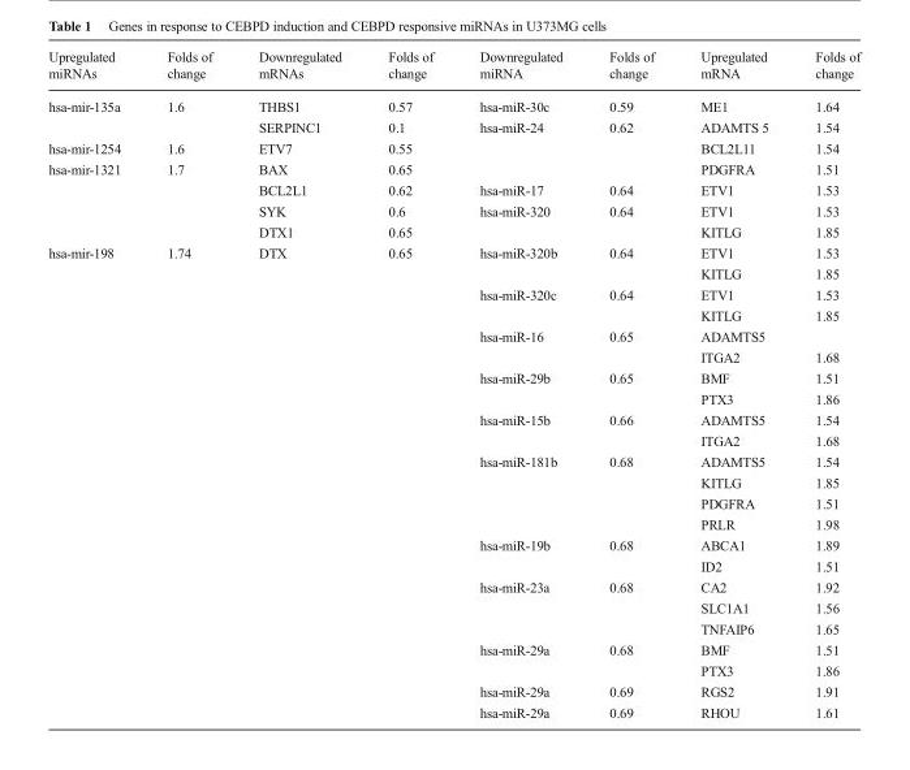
<table><thead><tr><td>Upregulated miRNAs</td><td>Folds of change</td><td>Downregulated mRNAs</td><td>Folds of change</td><td>Downregulated miRNA</td><td>Folds of change</td><td>Upregulated mRNA</td><td>Folds of change</td></tr></thead><tbody><tr><td>hsa-mir-135a</td><td>1.6</td><td>THBS1</td><td>0.57</td><td>hsa-miR-30c</td><td>0.59</td><td>ME1</td><td>1.64</td></tr><tr><td colspan="2"></td><td>SERPINC1</td><td>0.1</td><td>hsa-miR-24</td><td>0.62</td><td>ADAMTS 5</td><td>1.54</td></tr><tr><td>hsa-mir-1254</td><td>1.6</td><td>ETV7</td><td>0.55</td><td colspan="2"></td><td>BCL2L11</td><td>1.54</td></tr><tr><td>hsa-mir-1321</td><td>1.7</td><td>BAX</td><td>0.65</td><td colspan="2"></td><td>PDGFRA</td><td>1.51</td></tr><tr><td colspan="2"></td><td>BCL2L1</td><td>0.62</td><td>hsa-miR-17</td><td>0.64</td><td>ETV1</td><td>1.53</td></tr><tr><td colspan="2"></td><td>SYK</td><td>0.6</td><td>hsa-miR-320</td><td>0.64</td><td>ETV1</td><td>1.53</td></tr><tr><td colspan="2"></td><td>DTX1</td><td>0.65</td><td colspan="2"></td><td>KITLG</td><td>1.85</td></tr><tr><td>hsa-mir-198</td><td>1.74</td><td>DTX</td><td>0.65</td><td>hsa-miR-320b</td><td>0.64</td><td>ETV1</td><td>1.53</td></tr><tr><td colspan="6"></td><td>KITLG</td><td>1.85</td></tr><tr><td colspan="4"></td><td>hsa-miR-320c</td><td>0.64</td><td>ETV1</td><td>1.53</td></tr><tr><td colspan="6"></td><td>KITLG</td><td>1.85</td></tr><tr><td colspan="4"></td><td>hsa-miR-16</td><td>0.65</td><td>ADAMTS5</td><td></td></tr><tr><td colspan="6"></td><td>ITGA2</td><td>1.68</td></tr><tr><td colspan="4"></td><td>hsa-miR-29b</td><td>0.65</td><td>BMF</td><td>1.51</td></tr><tr><td colspan="6"></td><td>PTX3</td><td>1.86</td></tr><tr><td colspan="4"></td><td>hsa-miR-15b</td><td>0.66</td><td>ADAMTS5</td><td>1.54</td></tr><tr><td colspan="6"></td><td>ITGA2</td><td>1.68</td></tr><tr><td colspan="4"></td><td>hsa-miR-181b</td><td>0.68</td><td>ADAMTS5</td><td>1.54</td></tr><tr><td colspan="6"></td><td>KITLG</td><td>1.85</td></tr><tr><td colspan="6"></td><td>PDGFRA</td><td>1.51</td></tr><tr><td colspan="6"></td><td>PRLR</td><td>1.98</td></tr><tr><td colspan="4"></td><td>hsa-miR-19b</td><td>0.68</td><td>ABCA1</td><td>1.89</td></tr><tr><td colspan="6"></td><td>ID2</td><td>1.51</td></tr><tr><td colspan="4"></td><td>hsa-miR-23a</td><td>0.68</td><td>CA2</td><td>1.92</td></tr><tr><td colspan="6"></td><td>SLC1A1</td><td>1.56</td></tr><tr><td colspan="6"></td><td>TNFAIP6</td><td>1.65</td></tr><tr><td colspan="4"></td><td>hsa-miR-29a</td><td>0.68</td><td>BMF</td><td>1.51</td></tr><tr><td colspan="6"></td><td>PTX3</td><td>1.86</td></tr><tr><td colspan="4"></td><td>hsa-miR-29a</td><td>0.69</td><td>RGS2</td><td>1.91</td></tr><tr><td colspan="4"></td><td>hsa-miR-29a</td><td>0.69</td><td>RHOU</td><td>1.61</td></tr></tbody></table>